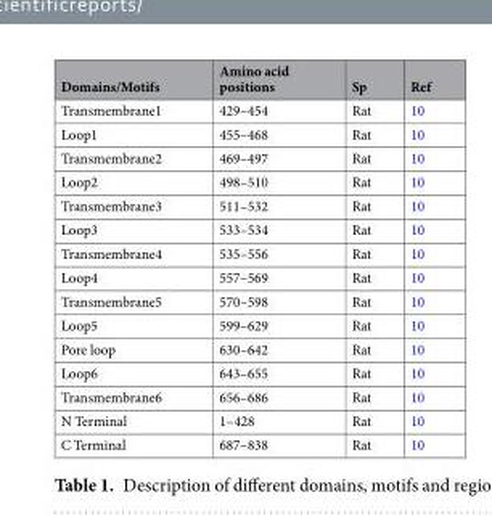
<table><thead><tr><td>Domains/Motifs</td><td>Amino acid positions</td><td>Sp</td><td>Ref</td></tr></thead><tbody><tr><td>Transmembrane1</td><td>429–454</td><td>Rat</td><td>10</td></tr><tr><td>Loop1</td><td>455–468</td><td>Rat</td><td>10</td></tr><tr><td>Transmembrane2</td><td>469–497</td><td>Rat</td><td>10</td></tr><tr><td>Loop2</td><td>498–510</td><td>Rat</td><td>10</td></tr><tr><td>Transmembrane3</td><td>511–532</td><td>Rat</td><td>10</td></tr><tr><td>Loop3</td><td>533–534</td><td>Rat</td><td>10</td></tr><tr><td>Transmembrane4</td><td>535–556</td><td>Rat</td><td>10</td></tr><tr><td>Loop4</td><td>557–569</td><td>Rat</td><td>10</td></tr><tr><td>Transmembrane5</td><td>570–598</td><td>Rat</td><td>10</td></tr><tr><td>Loop5</td><td>599–629</td><td>Rat</td><td>10</td></tr><tr><td>Pore loop</td><td>630–642</td><td>Rat</td><td>10</td></tr><tr><td>Loop6</td><td>643–655</td><td>Rat</td><td>10</td></tr><tr><td>Transmembrane6</td><td>656–686</td><td>Rat</td><td>10</td></tr><tr><td>N Terminal</td><td>1–428</td><td>Rat</td><td>10</td></tr><tr><td>C Terminal</td><td>687–838</td><td>Rat</td><td>10</td></tr></tbody></table>